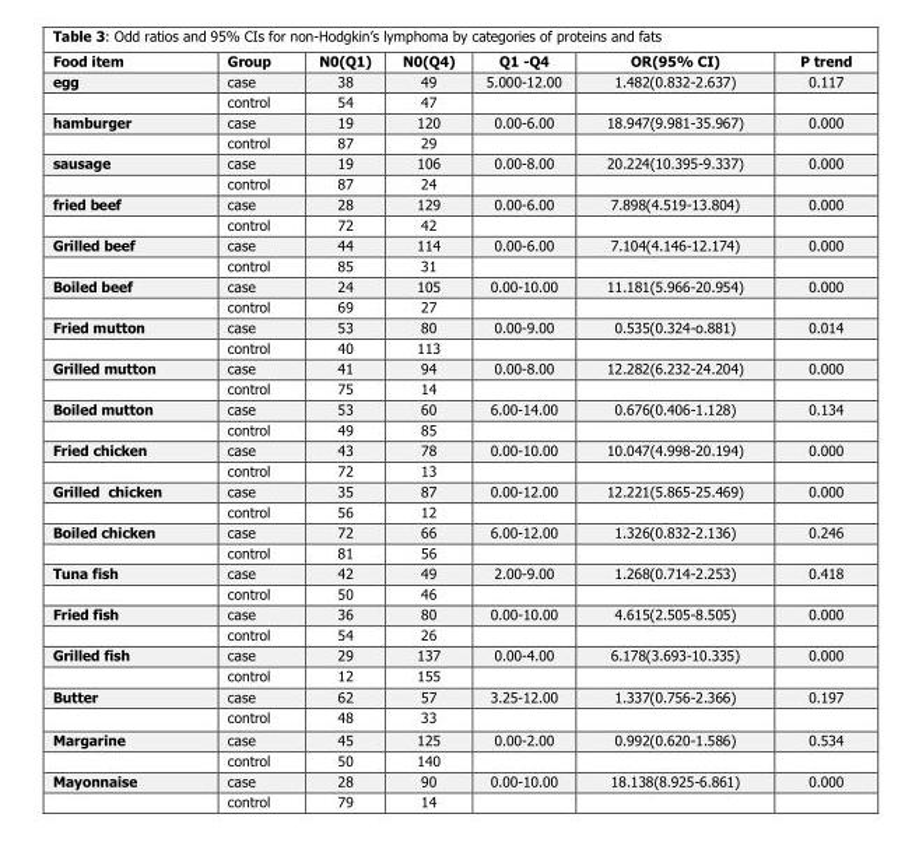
<table><thead><tr><td>Food item</td><td>Group</td><td>N0(Q1)</td><td>N0(Q4)</td><td>Q1 -Q4</td><td>OR(95% CI)</td><td>P trend</td></tr></thead><tbody><tr><td rowspan="2">egg</td><td>case</td><td>38</td><td>49</td><td>5.000-12.00</td><td>1.482(0.832-2.637)</td><td>0.117</td></tr><tr><td>control</td><td>54</td><td>47</td><td></td><td></td><td></td></tr><tr><td rowspan="2">hamburger</td><td>case</td><td>19</td><td>120</td><td>0.00-6.00</td><td>18.947(9.981-35.967)</td><td>0.000</td></tr><tr><td>control</td><td>87</td><td>29</td><td></td><td></td><td></td></tr><tr><td rowspan="2">sausage</td><td>case</td><td>19</td><td>106</td><td>0.00-8.00</td><td>20.224(10.395-9.337)</td><td>0.000</td></tr><tr><td>control</td><td>87</td><td>24</td><td></td><td></td><td></td></tr><tr><td rowspan="2">fried beef</td><td>case</td><td>28</td><td>129</td><td>0.00-6.00</td><td>7.898(4.519-13.804)</td><td>0.000</td></tr><tr><td>control</td><td>72</td><td>42</td><td></td><td></td><td></td></tr><tr><td rowspan="2">Grilled beef</td><td>case</td><td>44</td><td>114</td><td>0.00-6.00</td><td>7.104(4.146-12.174)</td><td>0.000</td></tr><tr><td>control</td><td>85</td><td>31</td><td></td><td></td><td></td></tr><tr><td rowspan="2">Boiled beef</td><td>case</td><td>24</td><td>105</td><td>0.00-10.00</td><td>11.181(5.966-20.954)</td><td>0.000</td></tr><tr><td>control</td><td>69</td><td>27</td><td></td><td></td><td></td></tr><tr><td rowspan="2">Fried mutton</td><td>case</td><td>53</td><td>80</td><td>0.00-9.00</td><td>0.535(0.324-o.881)</td><td>0.014</td></tr><tr><td>control</td><td>40</td><td>113</td><td></td><td></td><td></td></tr><tr><td rowspan="2">Grilled mutton</td><td>case</td><td>41</td><td>94</td><td>0.00-8.00</td><td>12.282(6.232-24.204)</td><td>0.000</td></tr><tr><td>control</td><td>75</td><td>14</td><td></td><td></td><td></td></tr><tr><td rowspan="2">Boiled mutton</td><td>case</td><td>53</td><td>60</td><td>6.00-14.00</td><td>0.676(0.406-1.128)</td><td>0.134</td></tr><tr><td>control</td><td>49</td><td>85</td><td></td><td></td><td></td></tr><tr><td rowspan="2">Fried chicken</td><td>case</td><td>43</td><td>78</td><td>0.00-10.00</td><td>10.047(4.998-20.194)</td><td>0.000</td></tr><tr><td>control</td><td>72</td><td>13</td><td></td><td></td><td></td></tr><tr><td rowspan="2">Grilled chicken</td><td>case</td><td>35</td><td>87</td><td>0.00-12.00</td><td>12.221(5.865-25.469)</td><td>0.000</td></tr><tr><td>control</td><td>56</td><td>12</td><td></td><td></td><td></td></tr><tr><td rowspan="2">Boiled chicken</td><td>case</td><td>72</td><td>66</td><td>6.00-12.00</td><td>1.326(0.832-2.136)</td><td>0.246</td></tr><tr><td>control</td><td>81</td><td>56</td><td></td><td></td><td></td></tr><tr><td rowspan="2">Tuna fish</td><td>case</td><td>42</td><td>49</td><td>2.00-9.00</td><td>1.268(0.714-2.253)</td><td>0.418</td></tr><tr><td>control</td><td>50</td><td>46</td><td></td><td></td><td></td></tr><tr><td rowspan="2">Fried fish</td><td>case</td><td>36</td><td>80</td><td>0.00-10.00</td><td>4.615(2.505-8.505)</td><td>0.000</td></tr><tr><td>control</td><td>54</td><td>26</td><td></td><td></td><td></td></tr><tr><td rowspan="2">Grilled fish</td><td>case</td><td>29</td><td>137</td><td>0.00-4.00</td><td>6.178(3.693-10.335)</td><td>0.000</td></tr><tr><td>control</td><td>12</td><td>155</td><td></td><td></td><td></td></tr><tr><td rowspan="2">Butter</td><td>case</td><td>62</td><td>57</td><td>3.25-12.00</td><td>1.337(0.756-2.366)</td><td>0.197</td></tr><tr><td>control</td><td>48</td><td>33</td><td></td><td></td><td></td></tr><tr><td rowspan="2">Margarine</td><td>case</td><td>45</td><td>125</td><td>0.00-2.00</td><td>0.992(0.620-1.586)</td><td>0.534</td></tr><tr><td>control</td><td>50</td><td>140</td><td></td><td></td><td></td></tr><tr><td rowspan="2">Mayonnaise</td><td>case</td><td>28</td><td>90</td><td>0.00-10.00</td><td>18.138(8.925-6.861)</td><td>0.000</td></tr><tr><td>control</td><td>79</td><td>14</td><td></td><td></td><td></td></tr></tbody></table>